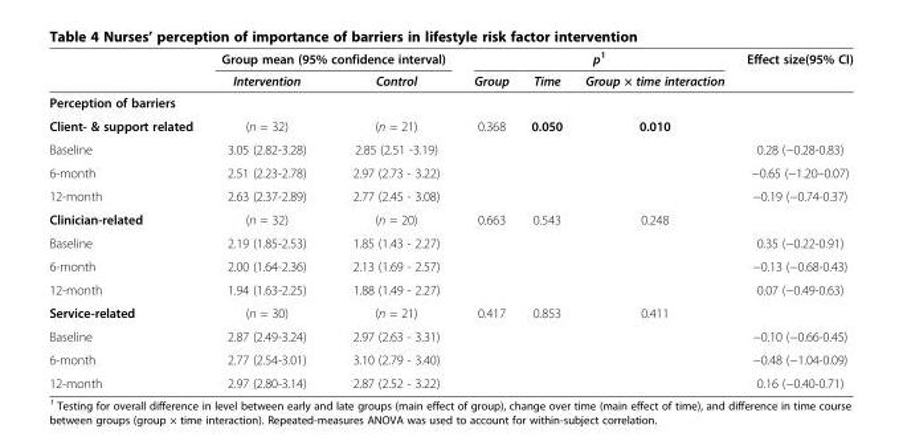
<table><thead><tr><td rowspan="2"></td><td colspan="2">Group mean (95% confidence interval)</td><td colspan="3">p<sup>1</sup></td><td rowspan="2">Effect size(95% CI)</td></tr><tr><td>Intervention</td><td>Control</td><td>Group</td><td>Time</td><td>Group × time interaction</td></tr></thead><tbody><tr><td colspan="7">Perception of barriers</td></tr><tr><td>Client- &amp; support related</td><td>(n = 32)</td><td>(n = 21)</td><td>0.368</td><td>0.050</td><td>0.010</td><td></td></tr><tr><td>Baseline</td><td>3.05 (2.82-3.28)</td><td>2.85 (2.51 -3.19)</td><td></td><td></td><td></td><td>0.28 (−0.28-0.83)</td></tr><tr><td>6-month</td><td>2.51 (2.23-2.78)</td><td>2.97 (2.73 - 3.22)</td><td></td><td></td><td></td><td>−0.65 (−1.20–0.07)</td></tr><tr><td>12-month</td><td>2.63 (2.37-2.89)</td><td>2.77 (2.45 - 3.08)</td><td></td><td></td><td></td><td>−0.19 (−0.74-0.37)</td></tr><tr><td>Clinician-related</td><td>(n = 32)</td><td>(n = 20)</td><td>0.663</td><td>0.543</td><td>0.248</td><td></td></tr><tr><td>Baseline</td><td>2.19 (1.85-2.53)</td><td>1.85 (1.43 - 2.27)</td><td></td><td></td><td></td><td>0.35 (−0.22-0.91)</td></tr><tr><td>6-month</td><td>2.00 (1.64-2.36)</td><td>2.13 (1.69 - 2.57)</td><td></td><td></td><td></td><td>−0.13 (−0.68-0.43)</td></tr><tr><td>12-month</td><td>1.94 (1.63-2.25)</td><td>1.88 (1.49 - 2.27)</td><td></td><td></td><td></td><td>0.07 (−0.49-0.63)</td></tr><tr><td>Service-related</td><td>(n = 30)</td><td>(n = 21)</td><td>0.417</td><td>0.853</td><td>0.411</td><td></td></tr><tr><td>Baseline</td><td>2.87 (2.49-3.24)</td><td>2.97 (2.63 - 3.31)</td><td></td><td></td><td></td><td>−0.10 (−0.66-0.45)</td></tr><tr><td>6-month</td><td>2.77 (2.54-3.01)</td><td>3.10 (2.79 - 3.40)</td><td></td><td></td><td></td><td>−0.48 (−1.04-0.09)</td></tr><tr><td>12-month</td><td>2.97 (2.80-3.14)</td><td>2.87 (2.52 - 3.22)</td><td></td><td></td><td></td><td>0.16 (−0.40-0.71)</td></tr></tbody></table>